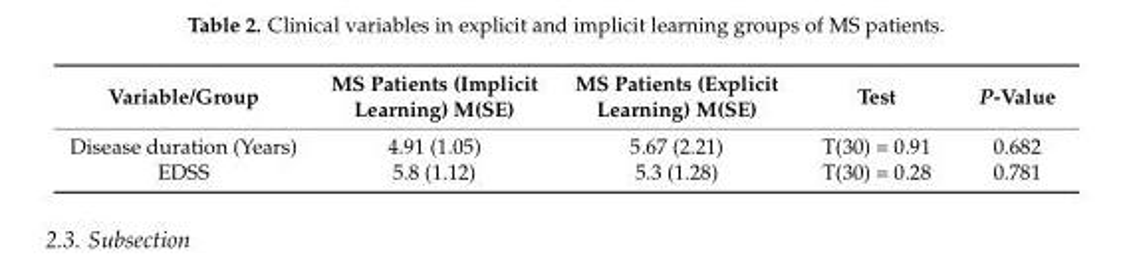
<table><thead><tr><td>Variable/Group</td><td>MS Patients (Implicit Learning) M(SE)</td><td>MS Patients (Explicit Learning) M(SE)</td><td>Test</td><td>P-Value</td></tr></thead><tbody><tr><td>Disease duration (Years)</td><td>4.91 (1.05)</td><td>5.67 (2.21)</td><td>T(30) = 0.91</td><td>0.682</td></tr><tr><td>EDSS</td><td>5.8 (1.12)</td><td>5.3 (1.28)</td><td>T(30) = 0.28</td><td>0.781</td></tr></tbody></table>